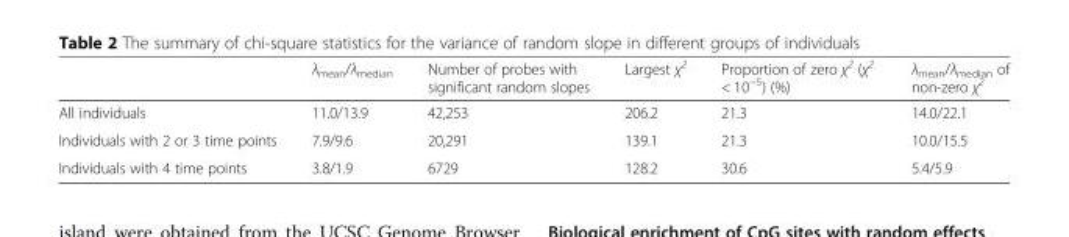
<table><thead><tr><td></td><td>λ<sub>mean</sub>/λ<sub>median</sub></td><td>Number of probes with significant random slopes</td><td>Largest χ<sup>2</sup></td><td>Proportion of zero χ<sup>2</sup> (χ<sup>2</sup> &lt; 10<sup>−5</sup>) (%)</td><td>λ<sub>mean</sub>/λ<sub>median</sub> of non-zero χ<sup>2</sup></td></tr></thead><tbody><tr><td>All individuals</td><td>11.0/13.9</td><td>42,253</td><td>206.2</td><td>21.3</td><td>14.0/22.1</td></tr><tr><td>Individuals with 2 or 3 time points</td><td>7.9/9.6</td><td>20,291</td><td>139.1</td><td>21.3</td><td>10.0/15.5</td></tr><tr><td>Individuals with 4 time points</td><td>3.8/1.9</td><td>6729</td><td>128.2</td><td>30.6</td><td>5.4/5.9</td></tr></tbody></table>